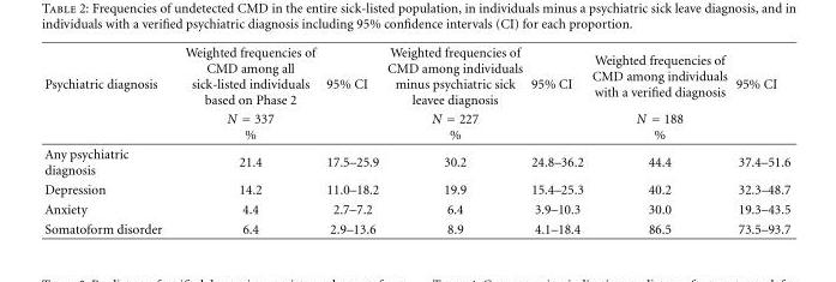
<table><thead><tr><td rowspan="2">Psychiatric diagnosis</td><td rowspan="2">Weighted frequencies of CMD among all sick-listed individuals based on Phase 2 N = 337 %</td><td rowspan="2">95% CI</td><td rowspan="2">Weighted frequencies of CMD among individuals minus psychiatric sick leavee diagnosis N = 227 %</td><td rowspan="2">95% CI</td><td rowspan="2">Weighted frequencies of CMD among individuals with a verified diagnosis N = 188 %</td><td rowspan="2">95% CI</td></tr><tr></tr></thead><tbody><tr><td>Any psychiatric diagnosis</td><td>21.4</td><td>17.5–25.9</td><td>30.2</td><td>24.8–36.2</td><td>44.4</td><td>37.4–51.6</td></tr><tr><td>Depression</td><td>14.2</td><td>11.0–18.2</td><td>19.9</td><td>15.4–25.3</td><td>40.2</td><td>32.3–48.7</td></tr><tr><td>Anxiety</td><td>4.4</td><td>2.7–7.2</td><td>6.4</td><td>3.9–10.3</td><td>30.0</td><td>19.3–43.5</td></tr><tr><td>Somatoform disorder</td><td>6.4</td><td>2.9–13.6</td><td>8.9</td><td>4.1–18.4</td><td>86.5</td><td>73.5–93.7</td></tr></tbody></table>